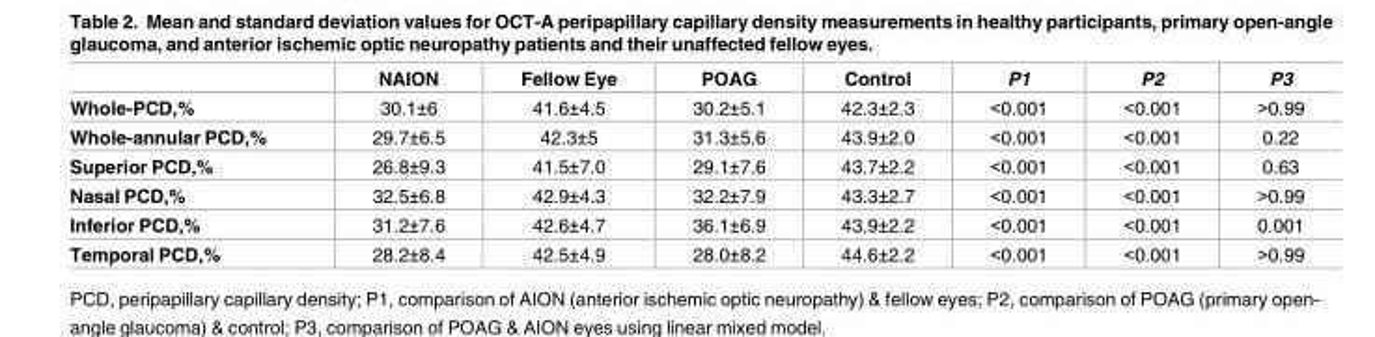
<table><thead><tr><td></td><td>NAION</td><td>Fellow Eye</td><td>POAG</td><td>Control</td><td>P1</td><td>P2</td><td>P3</td></tr></thead><tbody><tr><td>Whole-PCD,%</td><td>30.1±6</td><td>41.6±4.5</td><td>30.2±5.1</td><td>42.3±2.3</td><td>&lt;0.001</td><td>&lt;0.001</td><td>&gt;0.99</td></tr><tr><td>Whole-annular PCD,%</td><td>29.7±6.5</td><td>42.3±5</td><td>31.3±5.6</td><td>43.9±2.0</td><td>&lt;0.001</td><td>&lt;0.001</td><td>0.22</td></tr><tr><td>Superior PCD,%</td><td>26.8±9.3</td><td>41.5±7.0</td><td>29.1±7.6</td><td>43.7±2.2</td><td>&lt;0.001</td><td>&lt;0.001</td><td>0.63</td></tr><tr><td>Nasal PCD,%</td><td>32.5±6.8</td><td>42.9±4.3</td><td>32.2±7.9</td><td>43.3±2.7</td><td>&lt;0.001</td><td>&lt;0.001</td><td>&gt;0.99</td></tr><tr><td>Inferior PCD,%</td><td>31.2±7.6</td><td>42.6±4.7</td><td>36.1±6.9</td><td>43.9±2.2</td><td>&lt;0.001</td><td>&lt;0.001</td><td>0.001</td></tr><tr><td>Temporal PCD,%</td><td>28.2±8.4</td><td>42.5±4.9</td><td>28.0±8.2</td><td>44.6±2.2</td><td>&lt;0.001</td><td>&lt;0.001</td><td>&gt;0.99</td></tr></tbody></table>